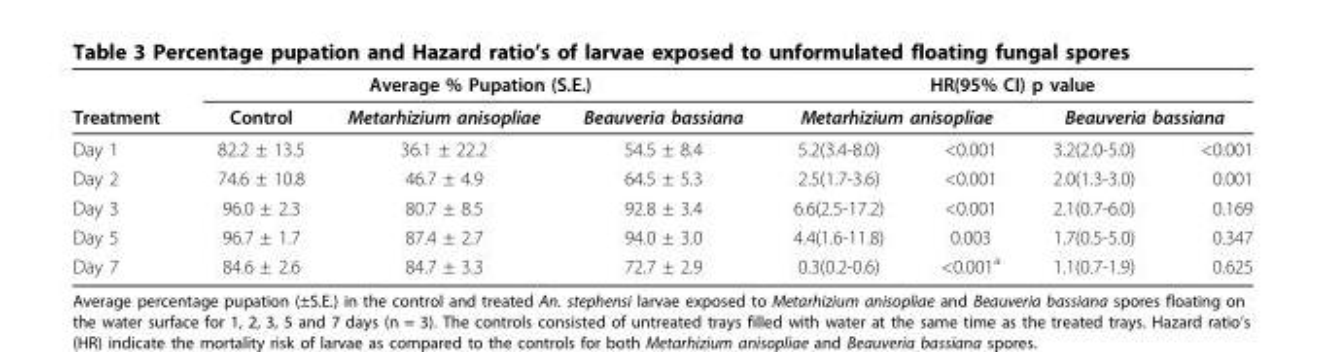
<table><thead><tr><td rowspan="3">Treatment Day 1</td><td colspan="3">Average % Pupation (S.E.)</td><td colspan="4">HR(95% CI) p value</td></tr><tr><td rowspan="2">Control 82.2 ± 13.5</td><td rowspan="2">Metarhizium anisopliae 36.1 ± 22.2</td><td rowspan="2">Beauveria bassiana 54.5 ± 8.4</td><td colspan="2">Metarhizium anisopliae</td><td colspan="2">Beauveria bassiana</td></tr><tr><td>5.2(3.4-8.0)</td><td>&lt;0.001</td><td>3.2(2.0-5.0)</td><td>&lt;0.001</td></tr></thead><tbody><tr><td>Day 2</td><td>74.6 ± 10.8</td><td>46.7 ± 4.9</td><td>64.5 ± 5.3</td><td>2.5(1.7-3.6)</td><td>&lt;0.001</td><td>2.0(1.3-3.0)</td><td>0.001</td></tr><tr><td>Day 3</td><td>96.0 ± 2.3</td><td>80.7 ± 8.5</td><td>92.8 ± 3.4</td><td>6.6(2.5-17.2)</td><td>&lt;0.001</td><td>2.1(0.7-6.0)</td><td>0.169</td></tr><tr><td>Day 5</td><td>96.7 ± 1.7</td><td>87.4 ± 2.7</td><td>94.0 ± 3.0</td><td>4.4(1.6-11.8)</td><td>0.003</td><td>1.7(0.5-5.0)</td><td>0.347</td></tr><tr><td>Day 7</td><td>84.6 ± 2.6</td><td>84.7 ± 3.3</td><td>72.7 ± 2.9</td><td>0.3(0.2-0.6)</td><td>&lt;0.001<sup>a</sup></td><td>1.1(0.7-1.9)</td><td>0.625</td></tr></tbody></table>